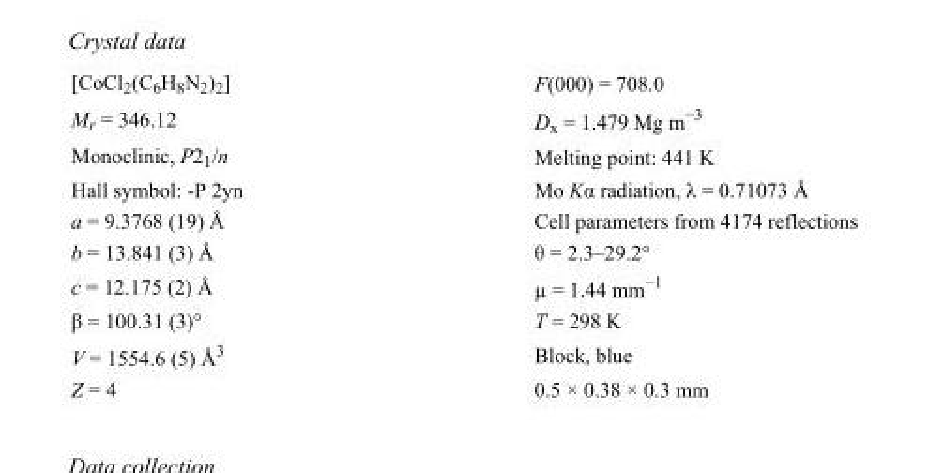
<table><tbody><tr><td>[CoCl<sub>2</sub>(C<sub>6</sub>H<sub>8</sub>N<sub>2</sub>)<sub>2</sub>]</td><td>F(000) = 708.0</td></tr><tr><td>M<sub>r</sub> = 346.12</td><td>D<sub>x</sub> = 1.479 Mg m<sup>−3</sup></td></tr><tr><td>Monoclinic, P2<sub>1</sub>/n</td><td>Melting point: 441 K</td></tr><tr><td>Hall symbol: -P 2yn</td><td>Mo Kα radiation, λ = 0.71073 Å</td></tr><tr><td>a = 9.3768 (19) Å</td><td>Cell parameters from 4174 reflections</td></tr><tr><td>b = 13.841 (3) Å</td><td>θ = 2.3–29.2°</td></tr><tr><td>c = 12.175 (2) Å</td><td>µ = 1.44 mm<sup>−1</sup></td></tr><tr><td>β = 100.31 (3)°</td><td>T = 298 K</td></tr><tr><td>V = 1554.6 (5) Å<sup>3</sup></td><td>Block, blue</td></tr><tr><td>Z = 4</td><td>0.5 × 0.38 × 0.3 mm</td></tr></tbody></table>